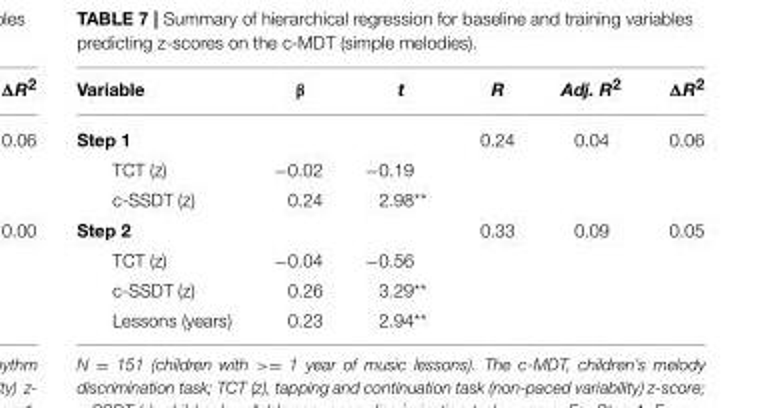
<table><thead><tr><td>Variable</td><td>β</td><td>t</td><td>R</td><td>Adj. R<sup>2</sup></td><td>ΔR<sup>2</sup></td></tr></thead><tbody><tr><td>Step 1</td><td></td><td></td><td>0.24</td><td>0.04</td><td>0.06</td></tr><tr><td>TCT (z)</td><td>−0.02</td><td>−0.19</td><td></td><td></td><td></td></tr><tr><td>c-SSDT (z)</td><td>0.24</td><td>2.98**</td><td></td><td></td><td></td></tr><tr><td>Step 2</td><td></td><td></td><td>0.33</td><td>0.09</td><td>0.05</td></tr><tr><td>TCT (z)</td><td>−0.04</td><td>−0.56</td><td></td><td></td><td></td></tr><tr><td>c-SSDT (z)</td><td>0.26</td><td>3.29**</td><td></td><td></td><td></td></tr><tr><td>Lessons (years)</td><td>0.23</td><td>2.94**</td><td></td><td></td><td></td></tr></tbody></table>